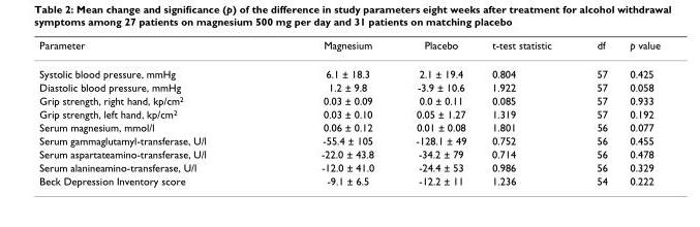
<table><thead><tr><td>Parameter</td><td>Magnesium</td><td>Placebo</td><td>t-test statistic</td><td>df</td><td>p value</td></tr></thead><tbody><tr><td>Systolic blood pressure, mmHg</td><td>6.1 ± 18.3</td><td>2.1 ± 19.4</td><td>0.804</td><td>57</td><td>0.425</td></tr><tr><td>Diastolic blood pressure, mmHg</td><td>1.2 ± 9.8</td><td>-3.9 ± 10.6</td><td>1.922</td><td>57</td><td>0.058</td></tr><tr><td>Grip strength, right hand, kp/cm<sup>2</sup></td><td>0.03 ± 0.09</td><td>0.0 ± 0.11</td><td>0.085</td><td>57</td><td>0.933</td></tr><tr><td>Grip strength, left hand, kp/cm<sup>2</sup></td><td>0.03 ± 0.10</td><td>0.05 ± 1.27</td><td>1.319</td><td>57</td><td>0.192</td></tr><tr><td>Serum magnesium, mmol/l</td><td>0.06 ± 0.12</td><td>0.01 ± 0.08</td><td>1.801</td><td>56</td><td>0.077</td></tr><tr><td>Serum gammaglutamyl-transferase, U/l</td><td>-55.4 ± 105</td><td>-128.1 ± 49</td><td>0.752</td><td>56</td><td>0.455</td></tr><tr><td>Serum aspartateamino-transferase, U/l</td><td>-22.0 ± 43.8</td><td>-34.2 ± 79</td><td>0.714</td><td>56</td><td>0.478</td></tr><tr><td>Serum alanineamino-transferase, U/l</td><td>-12.0 ± 41.0</td><td>-24.4 ± 53</td><td>0.986</td><td>56</td><td>0.329</td></tr><tr><td>Beck Depression Inventory score</td><td>-9.1 ± 6.5</td><td>-12.2 ± 11</td><td>1.236</td><td>54</td><td>0.222</td></tr></tbody></table>